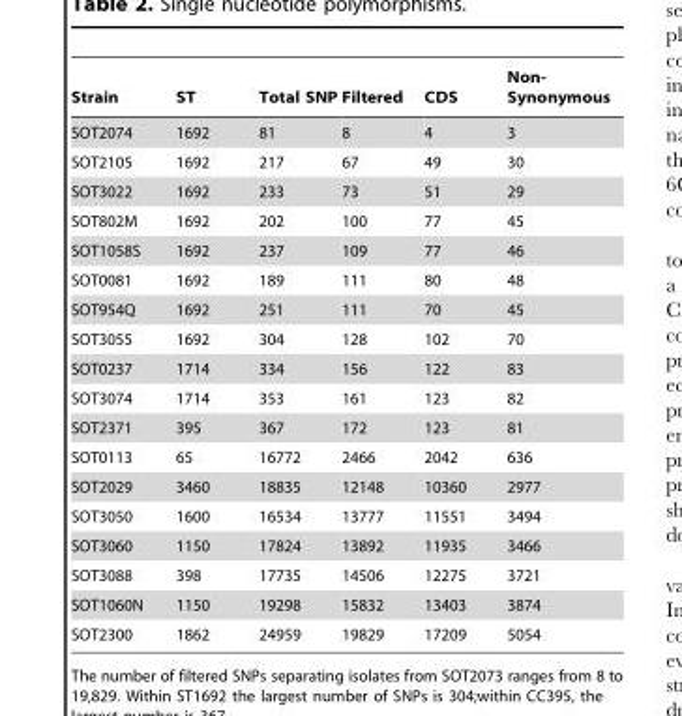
<table><thead><tr><td>Strain</td><td>ST</td><td>Total SNP</td><td>Filtered</td><td>CDS</td><td>Non- Synonymous</td></tr></thead><tbody><tr><td>SOT2074</td><td>1692</td><td>81</td><td>8</td><td>4</td><td>3</td></tr><tr><td>SOT2105</td><td>1692</td><td>217</td><td>67</td><td>49</td><td>30</td></tr><tr><td>SOT3022</td><td>1692</td><td>233</td><td>73</td><td>51</td><td>29</td></tr><tr><td>SOT802M</td><td>1692</td><td>202</td><td>100</td><td>77</td><td>45</td></tr><tr><td>SOT1058S</td><td>1692</td><td>237</td><td>109</td><td>77</td><td>46</td></tr><tr><td>SOT0081</td><td>1692</td><td>189</td><td>111</td><td>80</td><td>48</td></tr><tr><td>SOT954Q</td><td>1692</td><td>251</td><td>111</td><td>70</td><td>45</td></tr><tr><td>SOT3055</td><td>1692</td><td>304</td><td>128</td><td>102</td><td>70</td></tr><tr><td>SOT0237</td><td>1714</td><td>334</td><td>156</td><td>122</td><td>83</td></tr><tr><td>SOT3074</td><td>1714</td><td>353</td><td>161</td><td>123</td><td>82</td></tr><tr><td>SOT2371</td><td>395</td><td>367</td><td>172</td><td>123</td><td>81</td></tr><tr><td>SOT0113</td><td>65</td><td>16772</td><td>2466</td><td>2042</td><td>636</td></tr><tr><td>SOT2029</td><td>3460</td><td>18835</td><td>12148</td><td>10360</td><td>2977</td></tr><tr><td>SOT3050</td><td>1600</td><td>16534</td><td>13777</td><td>11551</td><td>3494</td></tr><tr><td>SOT3060</td><td>1150</td><td>17824</td><td>13892</td><td>11935</td><td>3466</td></tr><tr><td>SOT3088</td><td>398</td><td>17735</td><td>14506</td><td>12275</td><td>3721</td></tr><tr><td>SOT1060N</td><td>1150</td><td>19298</td><td>15832</td><td>13403</td><td>3874</td></tr><tr><td>SOT2300</td><td>1862</td><td>24959</td><td>19829</td><td>17209</td><td>5054</td></tr></tbody></table>